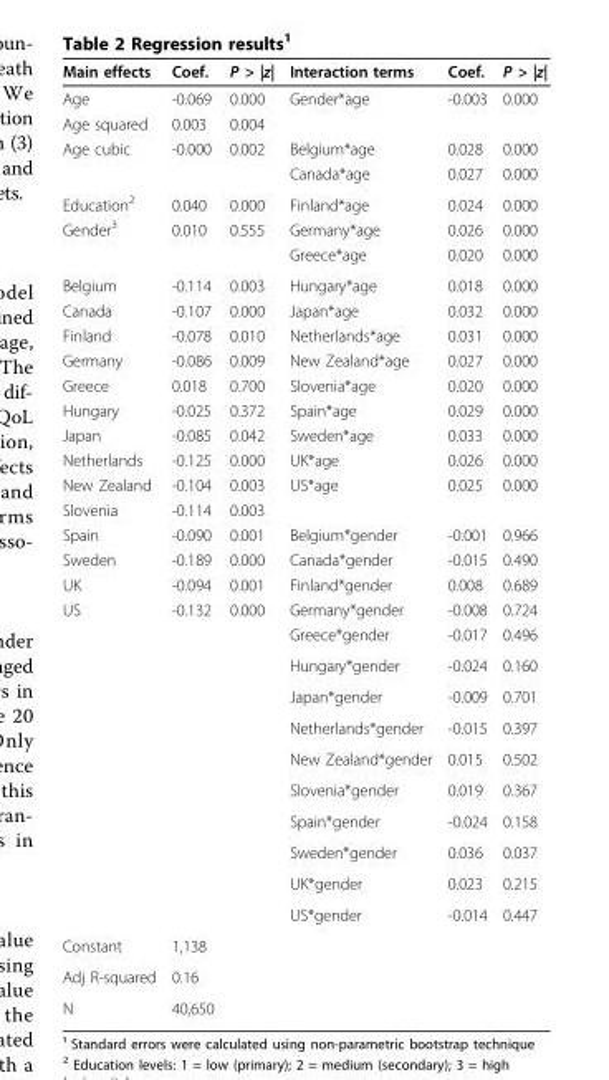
<table><thead><tr><td>Main effects</td><td>Coef.</td><td>P &gt; |z|</td><td>Interaction terms</td><td>Coef.</td><td>P &gt; |z|</td></tr></thead><tbody><tr><td>Age</td><td>-0.069</td><td>0.000</td><td>Gender*age</td><td>-0.003</td><td>0.000</td></tr><tr><td>Age squared</td><td>0.003</td><td>0.004</td><td></td><td></td><td></td></tr><tr><td rowspan="2">Age cubic</td><td>-0.000</td><td>0.002</td><td>Belgium*age</td><td>0.028</td><td>0.000</td></tr><tr><td></td><td></td><td>Canada*age</td><td>0.027</td><td>0.000</td></tr><tr><td>Education<sup>2</sup></td><td>0.040</td><td>0.000</td><td>Finland*age</td><td>0.024</td><td>0.000</td></tr><tr><td rowspan="2">Gender<sup>3</sup></td><td>0.010</td><td>0.555</td><td>Germany*age</td><td>0.026</td><td>0.000</td></tr><tr><td></td><td></td><td>Greece*age</td><td>0.020</td><td>0.000</td></tr><tr><td>Belgium</td><td>-0.114</td><td>0.003</td><td>Hungary*age</td><td>0.018</td><td>0.000</td></tr><tr><td>Canada</td><td>-0.107</td><td>0.000</td><td>Japan*age</td><td>0.032</td><td>0.000</td></tr><tr><td>Finland</td><td>-0.078</td><td>0.010</td><td>Netherlands*age</td><td>0.031</td><td>0.000</td></tr><tr><td>Germany</td><td>-0.086</td><td>0.009</td><td>New Zealand*age</td><td>0.027</td><td>0.000</td></tr><tr><td>Greece</td><td>0.018</td><td>0.700</td><td>Slovenia*age</td><td>0.020</td><td>0.000</td></tr><tr><td>Hungary</td><td>-0.025</td><td>0.372</td><td>Spain*age</td><td>0.029</td><td>0.000</td></tr><tr><td>Japan</td><td>-0.085</td><td>0.042</td><td>Sweden*age</td><td>0.033</td><td>0.000</td></tr><tr><td>Netherlands</td><td>-0.125</td><td>0.000</td><td>UK*age</td><td>0.026</td><td>0.000</td></tr><tr><td>New Zealand</td><td>-0.104</td><td>0.003</td><td>US*age</td><td>0.025</td><td>0.000</td></tr><tr><td>Slovenia</td><td>-0.114</td><td>0.003</td><td></td><td></td><td></td></tr><tr><td>Spain</td><td>-0.090</td><td>0.001</td><td>Belgium*gender</td><td>-0.001</td><td>0.966</td></tr><tr><td>Sweden</td><td>-0.189</td><td>0.000</td><td>Canada*gender</td><td>-0.015</td><td>0.490</td></tr><tr><td>UK</td><td>-0.094</td><td>0.001</td><td>Finland*gender</td><td>0.008</td><td>0.689</td></tr><tr><td rowspan="11">US</td><td>-0.132</td><td>0.000</td><td>Germany*gender</td><td>-0.008</td><td>0.724</td></tr><tr><td></td><td></td><td>Greece*gender</td><td>-0.017</td><td>0.496</td></tr><tr><td></td><td></td><td>Hungary*gender</td><td>-0.024</td><td>0.160</td></tr><tr><td></td><td></td><td>Japan*gender</td><td>-0.009</td><td>0.701</td></tr><tr><td></td><td></td><td>Netherlands*gender</td><td>-0.015</td><td>0.397</td></tr><tr><td></td><td></td><td>New Zealand*gender</td><td>0.015</td><td>0.502</td></tr><tr><td></td><td></td><td>Slovenia*gender</td><td>0.019</td><td>0.367</td></tr><tr><td></td><td></td><td>Spain*gender</td><td>-0.024</td><td>0.158</td></tr><tr><td></td><td></td><td>Sweden*gender</td><td>0.036</td><td>0.037</td></tr><tr><td></td><td></td><td>UK*gender</td><td>0.023</td><td>0.215</td></tr><tr><td></td><td></td><td>US*gender</td><td>-0.014</td><td>0.447</td></tr><tr><td>Constant</td><td>1,138</td><td></td><td></td><td></td><td></td></tr><tr><td>Adj R-squared</td><td>0.16</td><td></td><td></td><td></td><td></td></tr><tr><td>N</td><td>40,650</td><td></td><td></td><td></td><td></td></tr></tbody></table>